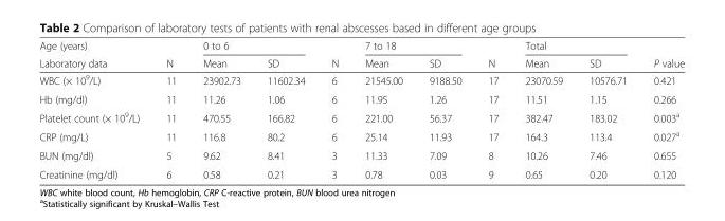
<table><thead><tr><td rowspan="2">Age (years) Laboratory data</td><td rowspan="2">N</td><td colspan="2">0 to 6</td><td rowspan="2">N</td><td colspan="2">7 to 18</td><td rowspan="2">N</td><td colspan="2">Total</td><td rowspan="2">P value</td></tr><tr><td>Mean</td><td>SD</td><td>Mean</td><td>SD</td><td>Mean</td><td>SD</td></tr></thead><tbody><tr><td>WBC (× 10<sup>9</sup>/L)</td><td>11</td><td>23902.73</td><td>11602.34</td><td>6</td><td>21545.00</td><td>9188.50</td><td>17</td><td>23070.59</td><td>10576.71</td><td>0.421</td></tr><tr><td>Hb (mg/dl)</td><td>11</td><td>11.26</td><td>1.06</td><td>6</td><td>11.95</td><td>1.26</td><td>17</td><td>11.51</td><td>1.15</td><td>0.266</td></tr><tr><td>Platelet count (× 10<sup>9</sup>/L)</td><td>11</td><td>470.55</td><td>166.82</td><td>6</td><td>221.00</td><td>56.37</td><td>17</td><td>382.47</td><td>183.02</td><td>0.003<sup>a</sup></td></tr><tr><td>CRP (mg/L)</td><td>11</td><td>116.8</td><td>80.2</td><td>6</td><td>25.14</td><td>11.93</td><td>17</td><td>164.3</td><td>113.4</td><td>0.027<sup>a</sup></td></tr><tr><td>BUN (mg/dl)</td><td>5</td><td>9.62</td><td>8.41</td><td>3</td><td>11.33</td><td>7.09</td><td>8</td><td>10.26</td><td>7.46</td><td>0.655</td></tr><tr><td>Creatinine (mg/dl)</td><td>6</td><td>0.58</td><td>0.21</td><td>3</td><td>0.78</td><td>0.03</td><td>9</td><td>0.65</td><td>0.20</td><td>0.120</td></tr></tbody></table>